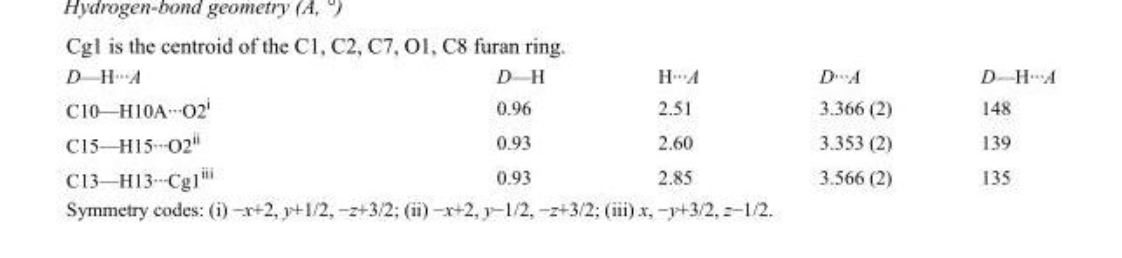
<table><tbody><tr><td>D—H···A</td><td>D—H</td><td>H···A</td><td>D···A</td><td>D—H···A</td></tr><tr><td>C10—H10A···O2<sup>i</sup></td><td>0.96</td><td>2.51</td><td>3.366 (2)</td><td>148</td></tr><tr><td>C15—H15···O2<sup>ii</sup></td><td>0.93</td><td>2.60</td><td>3.353 (2)</td><td>139</td></tr><tr><td>C13—H13···Cg1<sup>iii</sup></td><td>0.93</td><td>2.85</td><td>3.566 (2)</td><td>135</td></tr></tbody></table>